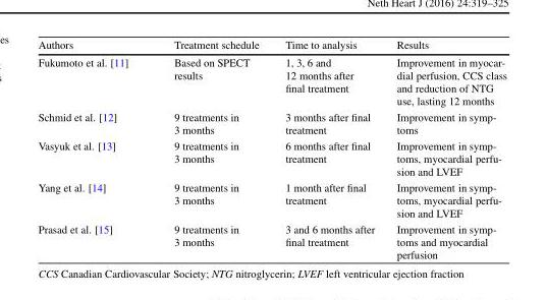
<table><thead><tr><td>Authors</td><td>Treatment schedule</td><td>Time to analysis</td><td>Results</td></tr></thead><tbody><tr><td>Fukumoto et al. [11]</td><td>Based on SPECT results</td><td>1, 3, 6 and 12 months after final treatment</td><td>Improvement in myocar- dial perfusion, CCS class and reduction of NTG use, lasting 12 months</td></tr><tr><td>Schmid et al. [12]</td><td>9 treatments in 3 months</td><td>3 months after final treatment</td><td>Improvement in symp- toms</td></tr><tr><td>Vasyuk et al. [13]</td><td>9 treatments in 3 months</td><td>6 months after final treatment</td><td>Improvement in symp- toms, myocardial perfu- sion and LVEF</td></tr><tr><td>Yang et al. [14]</td><td>9 treatments in 3 months</td><td>1 month after final treatment</td><td>Improvement in symp- toms, myocardial perfu- sion and LVEF</td></tr><tr><td>Prasad et al. [15]</td><td>9 treatments in 3 months</td><td>3 and 6 months after final treatment</td><td>Improvement in symp- toms and myocardial perfusion</td></tr></tbody></table>